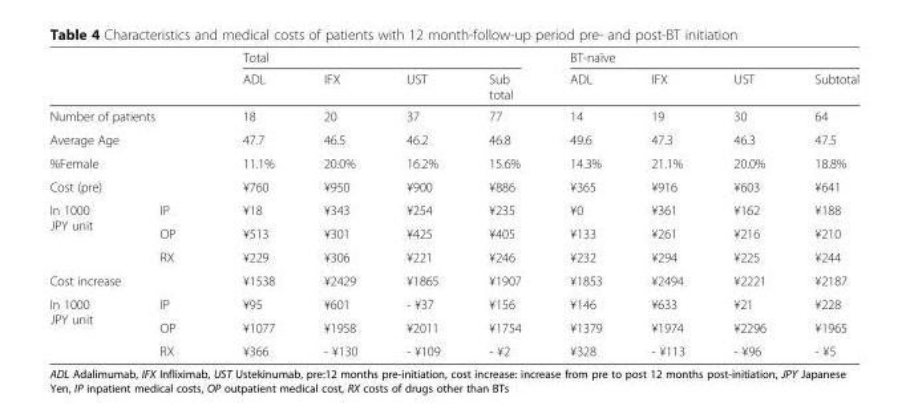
<table><thead><tr><td rowspan="2"></td><td rowspan="2"></td><td colspan="4">Total</td><td colspan="4">BT-naïve</td></tr><tr><td>ADL</td><td>IFX</td><td>UST</td><td>Sub total</td><td>ADL</td><td>IFX</td><td>UST</td><td>Subtotal</td></tr></thead><tbody><tr><td colspan="2">Number of patients</td><td>18</td><td>20</td><td>37</td><td>77</td><td>14</td><td>19</td><td>30</td><td>64</td></tr><tr><td colspan="2">Average Age</td><td>47.7</td><td>46.5</td><td>46.2</td><td>46.8</td><td>49.6</td><td>47.3</td><td>46.3</td><td>47.5</td></tr><tr><td colspan="2">%Female</td><td>11.1%</td><td>20.0%</td><td>16.2%</td><td>15.6%</td><td>14.3%</td><td>21.1%</td><td>20.0%</td><td>18.8%</td></tr><tr><td colspan="2">Cost (pre)</td><td>¥760</td><td>¥950</td><td>¥900</td><td>¥886</td><td>¥365</td><td>¥916</td><td>¥603</td><td>¥641</td></tr><tr><td rowspan="3">In 1000 JPY unit</td><td>IP</td><td>¥18</td><td>¥343</td><td>¥254</td><td>¥235</td><td>¥0</td><td>¥361</td><td>¥162</td><td>¥188</td></tr><tr><td>OP</td><td>¥513</td><td>¥301</td><td>¥425</td><td>¥405</td><td>¥133</td><td>¥261</td><td>¥216</td><td>¥210</td></tr><tr><td>RX</td><td>¥229</td><td>¥306</td><td>¥221</td><td>¥246</td><td>¥232</td><td>¥294</td><td>¥225</td><td>¥244</td></tr><tr><td colspan="2">Cost increase</td><td>¥1538</td><td>¥2429</td><td>¥1865</td><td>¥1907</td><td>¥1853</td><td>¥2494</td><td>¥2221</td><td>¥2187</td></tr><tr><td rowspan="3">In 1000 JPY unit</td><td>IP</td><td>¥95</td><td>¥601</td><td>- ¥37</td><td>¥156</td><td>¥146</td><td>¥633</td><td>¥21</td><td>¥228</td></tr><tr><td>OP</td><td>¥1077</td><td>¥1958</td><td>¥2011</td><td>¥1754</td><td>¥1379</td><td>¥1974</td><td>¥2296</td><td>¥1965</td></tr><tr><td>RX</td><td>¥366</td><td>- ¥130</td><td>- ¥109</td><td>- ¥2</td><td>¥328</td><td>- ¥113</td><td>- ¥96</td><td>- ¥5</td></tr></tbody></table>